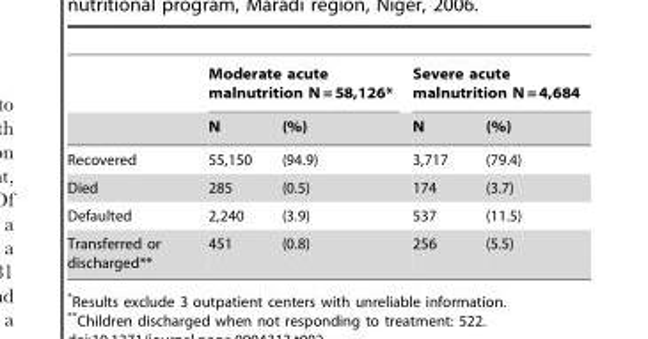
<table><thead><tr><td rowspan="2"></td><td colspan="2">Moderate acute malnutrition N = 58,126*</td><td colspan="2">Severe acute malnutrition N = 4,684</td></tr><tr><td>N</td><td>(%)</td><td>N</td><td>(%)</td></tr></thead><tbody><tr><td>Recovered</td><td>55,150</td><td>(94.9)</td><td>3,717</td><td>(79.4)</td></tr><tr><td>Died</td><td>285</td><td>(0.5)</td><td>174</td><td>(3.7)</td></tr><tr><td>Defaulted</td><td>2,240</td><td>(3.9)</td><td>537</td><td>(11.5)</td></tr><tr><td>Transferred or discharged**</td><td>451</td><td>(0.8)</td><td>256</td><td>(5.5)</td></tr></tbody></table>